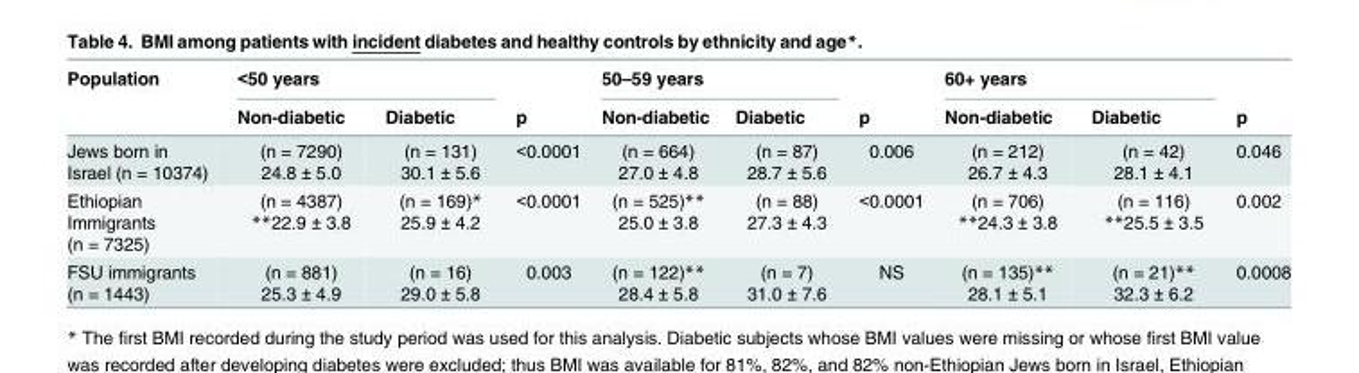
<table><thead><tr><td rowspan="2">Population</td><td colspan="2">&lt;50 years</td><td rowspan="2">p</td><td colspan="2">50–59 years</td><td rowspan="2">p</td><td colspan="2">60+ years</td><td rowspan="2">p</td></tr><tr><td>Non-diabetic</td><td>Diabetic</td><td>Non-diabetic</td><td>Diabetic</td><td>Non-diabetic</td><td>Diabetic</td></tr></thead><tbody><tr><td>Jews born in Israel (n = 10374)</td><td>(n = 7290) 24.8 ± 5.0</td><td>(n = 131) 30.1 ± 5.6</td><td>&lt;0.0001</td><td>(n = 664) 27.0 ± 4.8</td><td>(n = 87) 28.7 ± 5.6</td><td>0.006</td><td>(n = 212) 26.7 ± 4.3</td><td>(n = 42) 28.1 ± 4.1</td><td>0.046</td></tr><tr><td>Ethiopian Immigrants (n = 7325)</td><td>(n = 4387) **22.9 ± 3.8</td><td>(n = 169)* 25.9 ± 4.2</td><td>&lt;0.0001</td><td>(n = 525)** 25.0 ± 3.8</td><td>(n = 88) 27.3 ± 4.3</td><td>&lt;0.0001</td><td>(n = 706) **24.3 ± 3.8</td><td>(n = 116) **25.5 ± 3.5</td><td>0.002</td></tr><tr><td>FSU immigrants (n = 1443)</td><td>(n = 881) 25.3 ± 4.9</td><td>(n = 16) 29.0 ± 5.8</td><td>0.003</td><td>(n = 122)** 28.4 ± 5.8</td><td>(n = 7) 31.0 ± 7.6</td><td>NS</td><td>(n = 135)** 28.1 ± 5.1</td><td>(n = 21)** 32.3 ± 6.2</td><td>0.0008</td></tr></tbody></table>